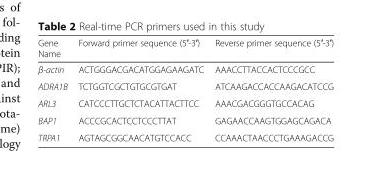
<table><thead><tr><td>Gene Name</td><td>Forward primer sequence (5′-3′)</td><td>Reverse primer sequence (5′-3′)</td></tr></thead><tbody><tr><td>β-actin</td><td>ACTGGGACGACATGGAGAAGATC</td><td>AAACCTTACCACTCCCGCC</td></tr><tr><td>ADRA1B</td><td>TCTGGTCGCTGTGCGTGAT</td><td>ATCAAGACCACCAAGACATCCG</td></tr><tr><td>ARL3</td><td>CATCCCTTGCTCTACATTACTTCC</td><td>AAACGACGGGTGCCACAG</td></tr><tr><td>BAP1</td><td>ACCCGCACTCCTCCCTTAT</td><td>GAGAACCAAGTGGAGCAGACA</td></tr><tr><td>TRPA1</td><td>AGTAGCGGCAACATGTCCACC</td><td>CCAAACTAACCCTGAAAGACCG</td></tr></tbody></table>